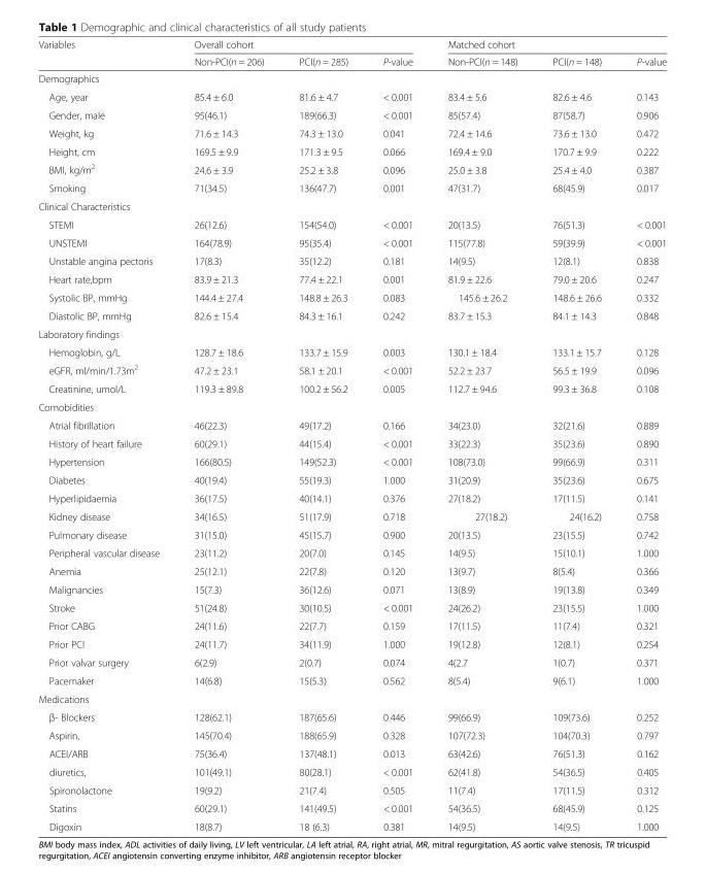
<table><thead><tr><td rowspan="2">Variables</td><td colspan="3">Overall cohort</td><td colspan="3">Matched cohort</td></tr><tr><td>Non-PCI(n = 206)</td><td>PCI(n = 285)</td><td>P-value</td><td>Non-PCI(n = 148)</td><td>PCI(n = 148)</td><td>P-value</td></tr></thead><tbody><tr><td colspan="7">Demographics</td></tr><tr><td>Age, year</td><td>85.4 ± 6.0</td><td>81.6 ± 4.7</td><td>&lt; 0.001</td><td>83.4 ± 5.6</td><td>82.6 ± 4.6</td><td>0.143</td></tr><tr><td>Gender, male</td><td>95(46.1)</td><td>189(66.3)</td><td>&lt; 0.001</td><td>85(57.4)</td><td>87(58.7)</td><td>0.906</td></tr><tr><td>Weight, kg</td><td>71.6 ± 14.3</td><td>74.3 ± 13.0</td><td>0.041</td><td>72.4 ± 14.6</td><td>73.6 ± 13.0</td><td>0.472</td></tr><tr><td>Height, cm</td><td>169.5 ± 9.9</td><td>171.3 ± 9.5</td><td>0.066</td><td>169.4 ± 9.0</td><td>170.7 ± 9.9</td><td>0.222</td></tr><tr><td>BMI, kg/m<sup>2</sup></td><td>24.6 ± 3.9</td><td>25.2 ± 3.8</td><td>0.096</td><td>25.0 ± 3.8</td><td>25.4 ± 4.0</td><td>0.387</td></tr><tr><td>Smoking</td><td>71(34.5)</td><td>136(47.7)</td><td>0.001</td><td>47(31.7)</td><td>68(45.9)</td><td>0.017</td></tr><tr><td colspan="7">Clinical Characteristics</td></tr><tr><td>STEMI</td><td>26(12.6)</td><td>154(54.0)</td><td>&lt; 0.001</td><td>20(13.5)</td><td>76(51.3)</td><td>&lt; 0.001</td></tr><tr><td>UNSTEMI</td><td>164(78.9)</td><td>95(35.4)</td><td>&lt; 0.001</td><td>115(77.8)</td><td>59(39.9)</td><td>&lt; 0.001</td></tr><tr><td>Unstable angina pectoris</td><td>17(8.3)</td><td>35(12.2)</td><td>0.181</td><td>14(9.5)</td><td>12(8.1)</td><td>0.838</td></tr><tr><td>Heart rate,bpm</td><td>83.9 ± 21.3</td><td>77.4 ± 22.1</td><td>0.001</td><td>81.9 ± 22.6</td><td>79.0 ± 20.6</td><td>0.247</td></tr><tr><td>Systolic BP, mmHg</td><td>144.4 ± 27.4</td><td>148.8 ± 26.3</td><td>0.083</td><td>145.6 ± 26.2</td><td>148.6 ± 26.6</td><td>0.332</td></tr><tr><td>Diastolic BP, mmHg</td><td>82.6 ± 15.4</td><td>84.3 ± 16.1</td><td>0.242</td><td>83.7 ± 15.3</td><td>84.1 ± 14.3</td><td>0.848</td></tr><tr><td colspan="7">Laboratory findings</td></tr><tr><td>Hemoglobin, g/L</td><td>128.7 ± 18.6</td><td>133.7 ± 15.9</td><td>0.003</td><td>130.1 ± 18.4</td><td>133.1 ± 15.7</td><td>0.128</td></tr><tr><td>eGFR, ml/min/1.73m<sup>2</sup></td><td>47.2 ± 23.1</td><td>58.1 ± 20.1</td><td>&lt; 0.001</td><td>52.2 ± 23.7</td><td>56.5 ± 19.9</td><td>0.096</td></tr><tr><td>Creatinine, umol/L</td><td>119.3 ± 89.8</td><td>100.2 ± 56.2</td><td>0.005</td><td>112.7 ± 94.6</td><td>99.3 ± 36.8</td><td>0.108</td></tr><tr><td colspan="7">Comobidities</td></tr><tr><td>Atrial fibrillation</td><td>46(22.3)</td><td>49(17.2)</td><td>0.166</td><td>34(23.0)</td><td>32(21.6)</td><td>0.889</td></tr><tr><td>History of heart failure</td><td>60(29.1)</td><td>44(15.4)</td><td>&lt; 0.001</td><td>33(22.3)</td><td>35(23.6)</td><td>0.890</td></tr><tr><td>Hypertension</td><td>166(80.5)</td><td>149(52.3)</td><td>&lt; 0.001</td><td>108(73.0)</td><td>99(66.9)</td><td>0.311</td></tr><tr><td>Diabetes</td><td>40(19.4)</td><td>55(19.3)</td><td>1.000</td><td>31(20.9)</td><td>35(23.6)</td><td>0.675</td></tr><tr><td>Hyperlipidaemia</td><td>36(17.5)</td><td>40(14.1)</td><td>0.376</td><td>27(18.2)</td><td>17(11.5)</td><td>0.141</td></tr><tr><td>Kidney disease</td><td>34(16.5)</td><td>51(17.9)</td><td>0.718</td><td>27(18.2)</td><td>24(16.2)</td><td>0.758</td></tr><tr><td>Pulmonary disease</td><td>31(15.0)</td><td>45(15.7)</td><td>0.900</td><td>20(13.5)</td><td>23(15.5)</td><td>0.742</td></tr><tr><td>Peripheral vascular disease</td><td>23(11.2)</td><td>20(7.0)</td><td>0.145</td><td>14(9.5)</td><td>15(10.1)</td><td>1.000</td></tr><tr><td>Anemia</td><td>25(12.1)</td><td>22(7.8)</td><td>0.120</td><td>13(9.7)</td><td>8(5.4)</td><td>0.366</td></tr><tr><td>Malignancies</td><td>15(7.3)</td><td>36(12.6)</td><td>0.071</td><td>13(8.9)</td><td>19(13.8)</td><td>0.349</td></tr><tr><td>Stroke</td><td>51(24.8)</td><td>30(10.5)</td><td>&lt; 0.001</td><td>24(26.2)</td><td>23(15.5)</td><td>1.000</td></tr><tr><td>Prior CABG</td><td>24(11.6)</td><td>22(7.7)</td><td>0.159</td><td>17(11.5)</td><td>11(7.4)</td><td>0.321</td></tr><tr><td>Prior PCI</td><td>24(11.7)</td><td>34(11.9)</td><td>1.000</td><td>19(12.8)</td><td>12(8.1)</td><td>0.254</td></tr><tr><td>Prior valvar surgery</td><td>6(2.9)</td><td>2(0.7)</td><td>0.074</td><td>4(2.7</td><td>1(0.7)</td><td>0.371</td></tr><tr><td>Pacemaker</td><td>14(6.8)</td><td>15(5.3)</td><td>0.562</td><td>8(5.4)</td><td>9(6.1)</td><td>1.000</td></tr><tr><td colspan="7">Medications</td></tr><tr><td>β- Blockers</td><td>128(62.1)</td><td>187(65.6)</td><td>0.446</td><td>99(66.9)</td><td>109(73.6)</td><td>0.252</td></tr><tr><td>Aspirin,</td><td>145(70.4)</td><td>188(65.9)</td><td>0.328</td><td>107(72.3)</td><td>104(70.3)</td><td>0.797</td></tr><tr><td>ACEI/ARB</td><td>75(36.4)</td><td>137(48.1)</td><td>0.013</td><td>63(42.6)</td><td>76(51.3)</td><td>0.162</td></tr><tr><td>diuretics,</td><td>101(49.1)</td><td>80(28.1)</td><td>&lt; 0.001</td><td>62(41.8)</td><td>54(36.5)</td><td>0.405</td></tr><tr><td>Spironolactone</td><td>19(9.2)</td><td>21(7.4)</td><td>0.505</td><td>11(7.4)</td><td>17(11.5)</td><td>0.312</td></tr><tr><td>Statins</td><td>60(29.1)</td><td>141(49.5)</td><td>&lt; 0.001</td><td>54(36.5)</td><td>68(45.9)</td><td>0.125</td></tr><tr><td>Digoxin</td><td>18(8.7)</td><td>18 (6.3)</td><td>0.381</td><td>14(9.5)</td><td>14(9.5)</td><td>1.000</td></tr></tbody></table>